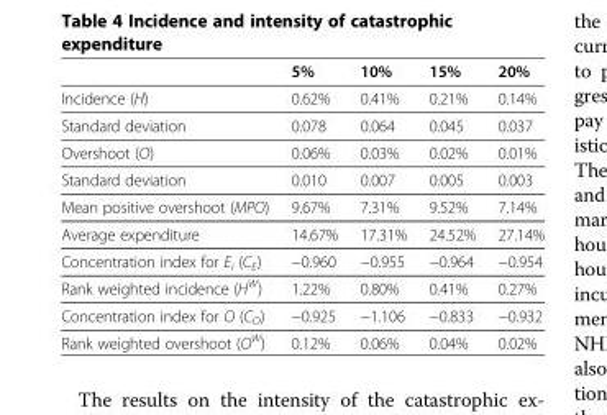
<table><thead><tr><td></td><td>5%</td><td>10%</td><td>15%</td><td>20%</td></tr></thead><tbody><tr><td>Incidence (H)</td><td>0.62%</td><td>0.41%</td><td>0.21%</td><td>0.14%</td></tr><tr><td>Standard deviation</td><td>0.078</td><td>0.064</td><td>0.045</td><td>0.037</td></tr><tr><td>Overshoot (O)</td><td>0.06%</td><td>0.03%</td><td>0.02%</td><td>0.01%</td></tr><tr><td>Standard deviation</td><td>0.010</td><td>0.007</td><td>0.005</td><td>0.003</td></tr><tr><td>Mean positive overshoot (MPO)</td><td>9.67%</td><td>7.31%</td><td>9.52%</td><td>7.14%</td></tr><tr><td>Average expenditure</td><td>14.67%</td><td>17.31%</td><td>24.52%</td><td>27.14%</td></tr><tr><td>Concentration index for E<sub>i</sub> (C<sub>E</sub>)</td><td>−0.960</td><td>−0.955</td><td>−0.964</td><td>−0.954</td></tr><tr><td>Rank weighted incidence (H<sup>W</sup>)</td><td>1.22%</td><td>0.80%</td><td>0.41%</td><td>0.27%</td></tr><tr><td>Concentration index for O (C<sub>O</sub>)</td><td>−0.925</td><td>−1.106</td><td>−0.833</td><td>−0.932</td></tr><tr><td>Rank weighted overshoot (O<sup>W</sup>)</td><td>0.12%</td><td>0.06%</td><td>0.04%</td><td>0.02%</td></tr></tbody></table>